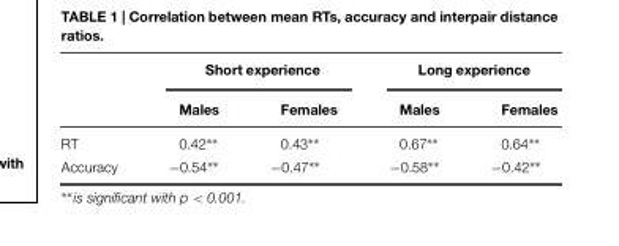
<table><thead><tr><td rowspan="2"></td><td colspan="2">Short experience</td><td colspan="2">Long experience</td></tr><tr><td>Males</td><td>Females</td><td>Males</td><td>Females</td></tr></thead><tbody><tr><td>RT</td><td>0.42∗∗</td><td>0.43∗∗</td><td>0.67∗∗</td><td>0.64∗∗</td></tr><tr><td>Accuracy</td><td>−0.54∗∗</td><td>−0.47∗∗</td><td>−0.58∗∗</td><td>−0.42∗∗</td></tr></tbody></table>